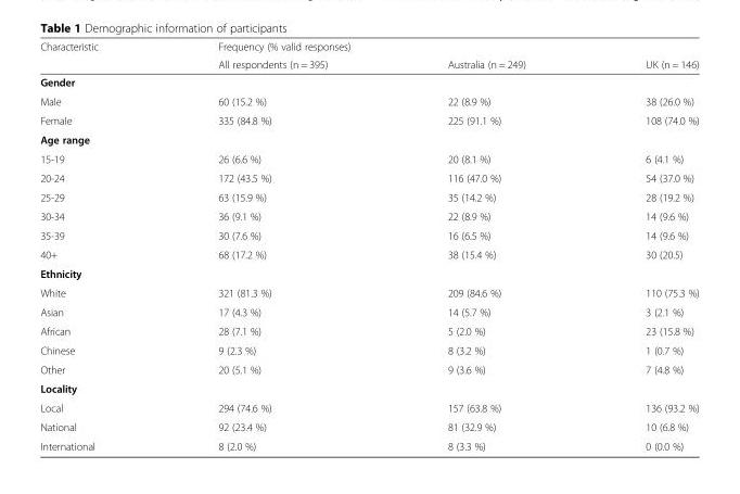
<table><thead><tr><td rowspan="2">Characteristic</td><td colspan="3">Frequency (% valid responses)</td></tr><tr><td>All respondents (n = 395)</td><td>Australia (n = 249)</td><td>UK (n = 146)</td></tr></thead><tbody><tr><td colspan="4">Gender</td></tr><tr><td>Male</td><td>60 (15.2 %)</td><td>22 (8.9 %)</td><td>38 (26.0 %)</td></tr><tr><td>Female</td><td>335 (84.8 %)</td><td>225 (91.1 %)</td><td>108 (74.0 %)</td></tr><tr><td colspan="4">Age range</td></tr><tr><td>15-19</td><td>26 (6.6 %)</td><td>20 (8.1 %)</td><td>6 (4.1 %)</td></tr><tr><td>20-24</td><td>172 (43.5 %)</td><td>116 (47.0 %)</td><td>54 (37.0 %)</td></tr><tr><td>25-29</td><td>63 (15.9 %)</td><td>35 (14.2 %)</td><td>28 (19.2 %)</td></tr><tr><td>30-34</td><td>36 (9.1 %)</td><td>22 (8.9 %)</td><td>14 (9.6 %)</td></tr><tr><td>35-39</td><td>30 (7.6 %)</td><td>16 (6.5 %)</td><td>14 (9.6 %)</td></tr><tr><td>40+</td><td>68 (17.2 %)</td><td>38 (15.4 %)</td><td>30 (20.5)</td></tr><tr><td colspan="4">Ethnicity</td></tr><tr><td>White</td><td>321 (81.3 %)</td><td>209 (84.6 %)</td><td>110 (75.3 %)</td></tr><tr><td>Asian</td><td>17 (4.3 %)</td><td>14 (5.7 %)</td><td>3 (2.1 %)</td></tr><tr><td>African</td><td>28 (7.1 %)</td><td>5 (2.0 %)</td><td>23 (15.8 %)</td></tr><tr><td>Chinese</td><td>9 (2.3 %)</td><td>8 (3.2 %)</td><td>1 (0.7 %)</td></tr><tr><td>Other</td><td>20 (5.1 %)</td><td>9 (3.6 %)</td><td>7 (4.8 %)</td></tr><tr><td colspan="4">Locality</td></tr><tr><td>Local</td><td>294 (74.6 %)</td><td>157 (63.8 %)</td><td>136 (93.2 %)</td></tr><tr><td>National</td><td>92 (23.4 %)</td><td>81 (32.9 %)</td><td>10 (6.8 %)</td></tr><tr><td>International</td><td>8 (2.0 %)</td><td>8 (3.3 %)</td><td>0 (0.0 %)</td></tr></tbody></table>